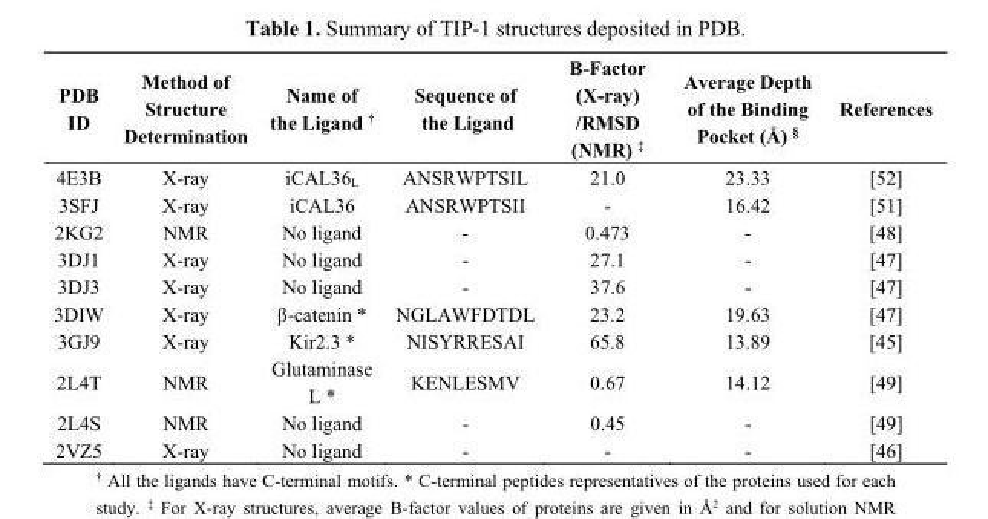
<table><thead><tr><td>PDB ID</td><td>Method of Structure Determination</td><td>Name of the Ligand <sup>†</sup></td><td>Sequence of the Ligand</td><td>B-Factor (X-ray) /RMSD (NMR) <sup>‡</sup></td><td>Average Depth of the Binding Pocket (Å) <sup>§</sup></td><td>References</td></tr></thead><tbody><tr><td>4E3B</td><td>X-ray</td><td>iCAL36<sub>L</sub></td><td>ANSRWPTSIL</td><td>21.0</td><td>23.33</td><td>[52]</td></tr><tr><td>3SFJ</td><td>X-ray</td><td>iCAL36</td><td>ANSRWPTSII</td><td>-</td><td>16.42</td><td>[51]</td></tr><tr><td>2KG2</td><td>NMR</td><td>No ligand</td><td>-</td><td>0.473</td><td>-</td><td>[48]</td></tr><tr><td>3DJ1</td><td>X-ray</td><td>No ligand</td><td>-</td><td>27.1</td><td>-</td><td>[47]</td></tr><tr><td>3DJ3</td><td>X-ray</td><td>No ligand</td><td>-</td><td>37.6</td><td>-</td><td>[47]</td></tr><tr><td>3DIW</td><td>X-ray</td><td>β-catenin *</td><td>NGLAWFDTDL</td><td>23.2</td><td>19.63</td><td>[47]</td></tr><tr><td>3GJ9</td><td>X-ray</td><td>Kir2.3 *</td><td>NISYRRESAI</td><td>65.8</td><td>13.89</td><td>[45]</td></tr><tr><td>2L4T</td><td>NMR</td><td>Glutaminase L *</td><td>KENLESMV</td><td>0.67</td><td>14.12</td><td>[49]</td></tr><tr><td>2L4S</td><td>NMR</td><td>No ligand</td><td>-</td><td>0.45</td><td>-</td><td>[49]</td></tr><tr><td>2VZ5</td><td>X-ray</td><td>No ligand</td><td>-</td><td>-</td><td>-</td><td>[46]</td></tr></tbody></table>